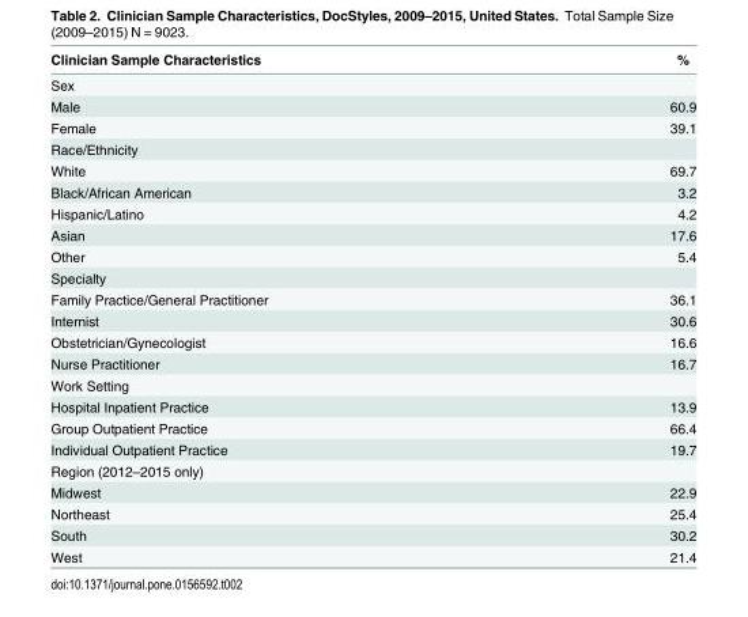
<table><thead><tr><td>Clinician Sample Characteristics</td><td>%</td></tr></thead><tbody><tr><td colspan="2">Sex</td></tr><tr><td>Male</td><td>60.9</td></tr><tr><td>Female</td><td>39.1</td></tr><tr><td colspan="2">Race/Ethnicity</td></tr><tr><td>White</td><td>69.7</td></tr><tr><td>Black/African American</td><td>3.2</td></tr><tr><td>Hispanic/Latino</td><td>4.2</td></tr><tr><td>Asian</td><td>17.6</td></tr><tr><td>Other</td><td>5.4</td></tr><tr><td colspan="2">Specialty</td></tr><tr><td>Family Practice/General Practitioner</td><td>36.1</td></tr><tr><td>Internist</td><td>30.6</td></tr><tr><td>Obstetrician/Gynecologist</td><td>16.6</td></tr><tr><td>Nurse Practitioner</td><td>16.7</td></tr><tr><td colspan="2">Work Setting</td></tr><tr><td>Hospital Inpatient Practice</td><td>13.9</td></tr><tr><td>Group Outpatient Practice</td><td>66.4</td></tr><tr><td>Individual Outpatient Practice</td><td>19.7</td></tr><tr><td colspan="2">Region (2012–2015 only)</td></tr><tr><td>Midwest</td><td>22.9</td></tr><tr><td>Northeast</td><td>25.4</td></tr><tr><td>South</td><td>30.2</td></tr><tr><td>West</td><td>21.4</td></tr></tbody></table>